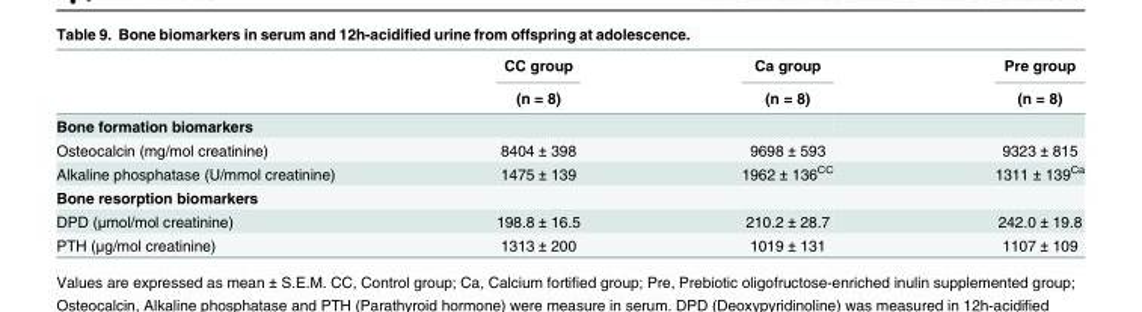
<table><thead><tr><td rowspan="2"></td><td rowspan="2">CC group (n = 8)</td><td rowspan="2">Ca group (n = 8)</td><td rowspan="2">Pre group (n = 8)</td></tr><tr></tr></thead><tbody><tr><td colspan="4">Bone formation biomarkers</td></tr><tr><td>Osteocalcin (mg/mol creatinine)</td><td>8404 ± 398</td><td>9698 ± 593</td><td>9323 ± 815</td></tr><tr><td>Alkaline phosphatase (U/mmol creatinine)</td><td>1475 ± 139</td><td>1962 ± 136<sup>CC</sup></td><td>1311 ± 139<sup>Ca</sup></td></tr><tr><td colspan="4">Bone resorption biomarkers</td></tr><tr><td>DPD (μmol/mol creatinine)</td><td>198.8 ± 16.5</td><td>210.2 ± 28.7</td><td>242.0 ± 19.8</td></tr><tr><td>PTH (μg/mol creatinine)</td><td>1313 ± 200</td><td>1019 ± 131</td><td>1107 ± 109</td></tr></tbody></table>